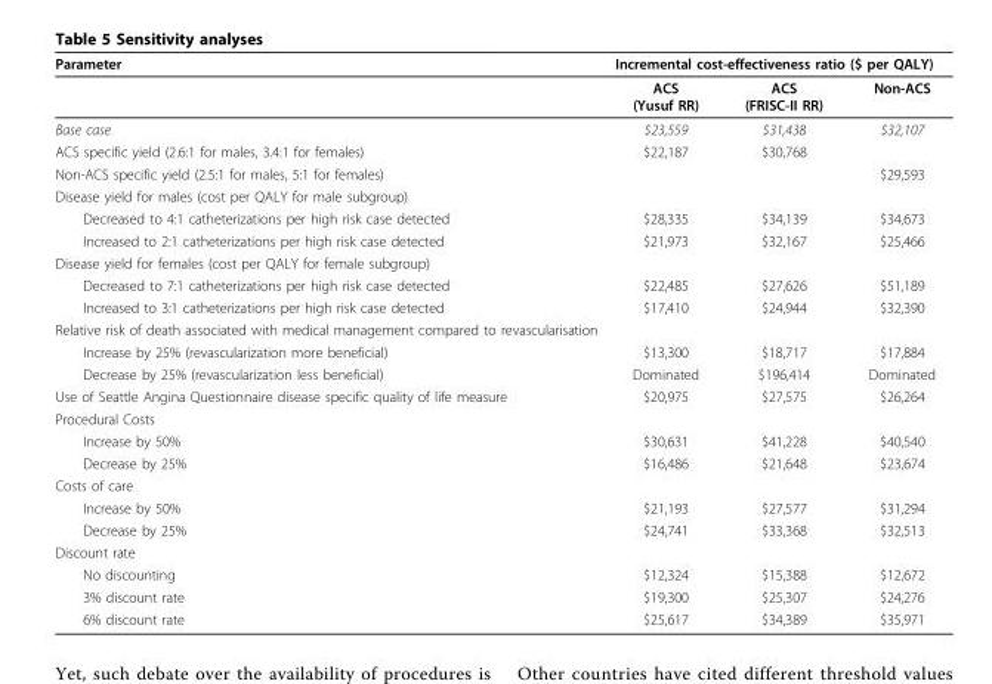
<table><thead><tr><td rowspan="2">Parameter</td><td colspan="3">Incremental cost-effectiveness ratio ($ per QALY)</td></tr><tr><td>ACS (Yusuf RR)</td><td>ACS (FRISC-II RR)</td><td>Non-ACS</td></tr></thead><tbody><tr><td>Base case</td><td>$23,559</td><td>$31,438</td><td>$32,107</td></tr><tr><td>ACS specific yield (2.6:1 for males, 3.4:1 for females)</td><td>$22,187</td><td>$30,768</td><td></td></tr><tr><td>Non-ACS specific yield (2.5:1 for males, 5:1 for females)</td><td></td><td></td><td>$29,593</td></tr><tr><td colspan="4">Disease yield for males (cost per QALY for male subgroup)</td></tr><tr><td>Decreased to 4:1 catheterizations per high risk case detected</td><td>$28,335</td><td>$34,139</td><td>$34,673</td></tr><tr><td>Increased to 2:1 catheterizations per high risk case detected</td><td>$21,973</td><td>$32,167</td><td>$25,466</td></tr><tr><td colspan="4">Disease yield for females (cost per QALY for female subgroup)</td></tr><tr><td>Decreased to 7:1 catheterizations per high risk case detected</td><td>$22,485</td><td>$27,626</td><td>$51,189</td></tr><tr><td>Increased to 3:1 catheterizations per high risk case detected</td><td>$17,410</td><td>$24,944</td><td>$32,390</td></tr><tr><td colspan="4">Relative risk of death associated with medical management compared to revascularisation</td></tr><tr><td>Increase by 25% (revascularization more beneficial)</td><td>$13,300</td><td>$18,717</td><td>$17,884</td></tr><tr><td>Decrease by 25% (revascularization less beneficial)</td><td>Dominated</td><td>$196,414</td><td>Dominated</td></tr><tr><td>Use of Seattle Angina Questionnaire disease specific quality of life measure</td><td>$20,975</td><td>$27,575</td><td>$26,264</td></tr><tr><td colspan="4">Procedural Costs</td></tr><tr><td>Increase by 50%</td><td>$30,631</td><td>$41,228</td><td>$40,540</td></tr><tr><td>Decrease by 25%</td><td>$16,486</td><td>$21,648</td><td>$23,674</td></tr><tr><td colspan="4">Costs of care</td></tr><tr><td>Increase by 50%</td><td>$21,193</td><td>$27,577</td><td>$31,294</td></tr><tr><td>Decrease by 25%</td><td>$24,741</td><td>$33,368</td><td>$32,513</td></tr><tr><td colspan="4">Discount rate</td></tr><tr><td>No discounting</td><td>$12,324</td><td>$15,388</td><td>$12,672</td></tr><tr><td>3% discount rate</td><td>$19,300</td><td>$25,307</td><td>$24,276</td></tr><tr><td>6% discount rate</td><td>$25,617</td><td>$34,389</td><td>$35,971</td></tr></tbody></table>